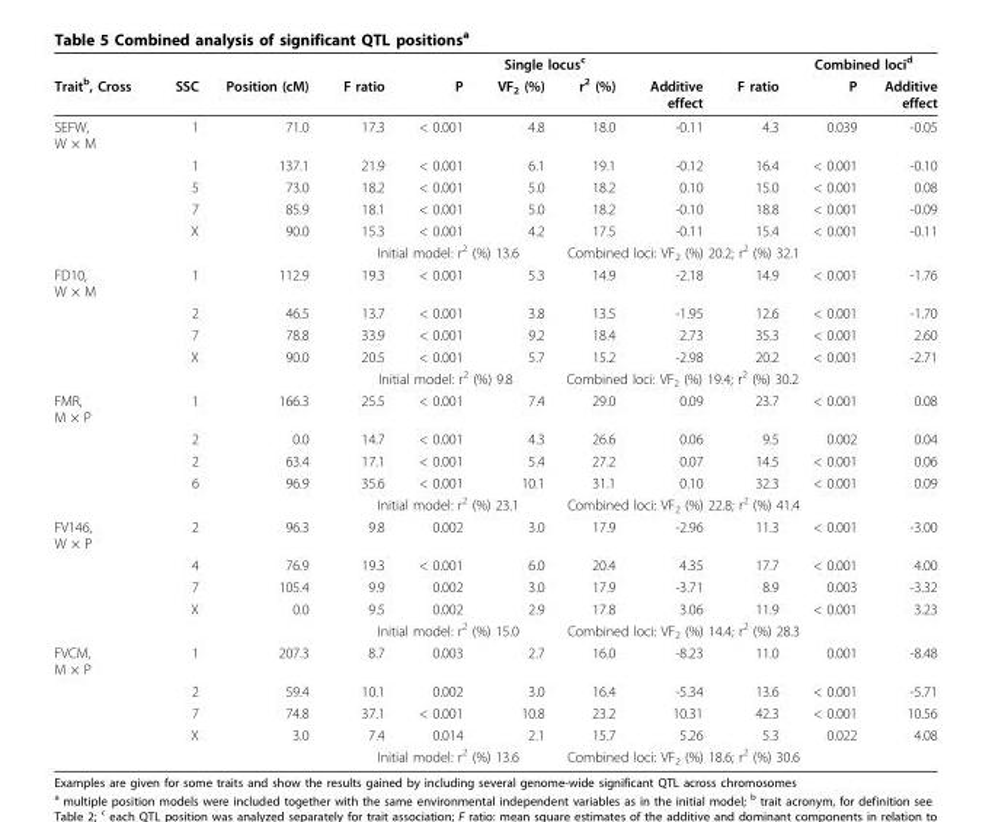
<table><thead><tr><td rowspan="2">Trait<sup>b</sup>, Cross</td><td rowspan="2">SSC</td><td rowspan="2">Position (cM)</td><td rowspan="2">F ratio</td><td rowspan="2">P</td><td colspan="2">Single locus<sup>c</sup></td><td rowspan="2">Additive effect</td><td rowspan="2">F ratio</td><td colspan="2">Combined loci<sup>d</sup></td></tr><tr><td>VF<sub>2</sub> (%)</td><td>r<sup>2</sup> (%)</td><td>P</td><td>Additive effect</td></tr></thead><tbody><tr><td rowspan="6">SEFW, W × M</td><td>1</td><td>71.0</td><td>17.3</td><td>&lt; 0.001</td><td>4.8</td><td>18.0</td><td>-0.11</td><td>4.3</td><td>0.039</td><td>-0.05</td></tr><tr><td>1</td><td>137.1</td><td>21.9</td><td>&lt; 0.001</td><td>6.1</td><td>19.1</td><td>-0.12</td><td>16.4</td><td>&lt; 0.001</td><td>-0.10</td></tr><tr><td>5</td><td>73.0</td><td>18.2</td><td>&lt; 0.001</td><td>5.0</td><td>18.2</td><td>0.10</td><td>15.0</td><td>&lt; 0.001</td><td>0.08</td></tr><tr><td>7</td><td>85.9</td><td>18.1</td><td>&lt; 0.001</td><td>5.0</td><td>18.2</td><td>-0.10</td><td>18.8</td><td>&lt; 0.001</td><td>-0.09</td></tr><tr><td>X</td><td>90.0</td><td>15.3</td><td>&lt; 0.001</td><td>4.2</td><td>17.5</td><td>-0.11</td><td>15.4</td><td>&lt; 0.001</td><td>-0.11</td></tr><tr><td></td><td></td><td colspan="7">Initial model: r<sup>2</sup> (%) 13.6 Combined loci: VF<sub>2</sub> (%) 20.2; r<sup>2</sup> (%) 32.1</td><td></td></tr><tr><td rowspan="5">FD10, W × M</td><td>1</td><td>112.9</td><td>19.3</td><td>&lt; 0.001</td><td>5.3</td><td>14.9</td><td>-2.18</td><td>14.9</td><td>&lt; 0.001</td><td>-1.76</td></tr><tr><td>2</td><td>46.5</td><td>13.7</td><td>&lt; 0.001</td><td>3.8</td><td>13.5</td><td>-1.95</td><td>12.6</td><td>&lt; 0.001</td><td>-1.70</td></tr><tr><td>7</td><td>78.8</td><td>33.9</td><td>&lt; 0.001</td><td>9.2</td><td>18.4</td><td>2.73</td><td>35.3</td><td>&lt; 0.001</td><td>2.60</td></tr><tr><td>X</td><td>90.0</td><td>20.5</td><td>&lt; 0.001</td><td>5.7</td><td>15.2</td><td>-2.98</td><td>20.2</td><td>&lt; 0.001</td><td>-2.71</td></tr><tr><td></td><td></td><td colspan="7">Initial model: r<sup>2</sup> (%) 9.8 Combined loci: VF<sub>2</sub> (%) 19.4; r<sup>2</sup> (%) 30.2</td><td></td></tr><tr><td rowspan="5">FMR, M × P</td><td>1</td><td>166.3</td><td>25.5</td><td>&lt; 0.001</td><td>7.4</td><td>29.0</td><td>0.09</td><td>23.7</td><td>&lt; 0.001</td><td>0.08</td></tr><tr><td>2</td><td>0.0</td><td>14.7</td><td>&lt; 0.001</td><td>4.3</td><td>26.6</td><td>0.06</td><td>9.5</td><td>0.002</td><td>0.04</td></tr><tr><td>2</td><td>63.4</td><td>17.1</td><td>&lt; 0.001</td><td>5.4</td><td>27.2</td><td>0.07</td><td>14.5</td><td>&lt; 0.001</td><td>0.06</td></tr><tr><td>6</td><td>96.9</td><td>35.6</td><td>&lt; 0.001</td><td>10.1</td><td>31.1</td><td>0.10</td><td>32.3</td><td>&lt; 0.001</td><td>0.09</td></tr><tr><td></td><td></td><td colspan="7">Initial model: r<sup>2</sup> (%) 23.1 Combined loci: VF<sub>2</sub> (%) 22.8; r<sup>2</sup> (%) 41.4</td><td></td></tr><tr><td rowspan="5">FV146, W × P</td><td>2</td><td>96.3</td><td>9.8</td><td>0.002</td><td>3.0</td><td>17.9</td><td>-2.96</td><td>11.3</td><td>&lt; 0.001</td><td>-3.00</td></tr><tr><td>4</td><td>76.9</td><td>19.3</td><td>&lt; 0.001</td><td>6.0</td><td>20.4</td><td>4.35</td><td>17.7</td><td>&lt; 0.001</td><td>4.00</td></tr><tr><td>7</td><td>105.4</td><td>9.9</td><td>0.002</td><td>3.0</td><td>17.9</td><td>-3.71</td><td>8.9</td><td>0.003</td><td>-3.32</td></tr><tr><td>X</td><td>0.0</td><td>9.5</td><td>0.002</td><td>2.9</td><td>17.8</td><td>3.06</td><td>11.9</td><td>&lt; 0.001</td><td>3.23</td></tr><tr><td></td><td></td><td colspan="7">Initial model: r<sup>2</sup> (%) 15.0 Combined loci: VF<sub>2</sub> (%) 14.4; r<sup>2</sup> (%) 28.3</td><td></td></tr><tr><td rowspan="5">FVCM, M × P</td><td>1</td><td>207.3</td><td>8.7</td><td>0.003</td><td>2.7</td><td>16.0</td><td>-8.23</td><td>11.0</td><td>0.001</td><td>-8.48</td></tr><tr><td>2</td><td>59.4</td><td>10.1</td><td>0.002</td><td>3.0</td><td>16.4</td><td>-5.34</td><td>13.6</td><td>&lt; 0.001</td><td>-5.71</td></tr><tr><td>7</td><td>74.8</td><td>37.1</td><td>&lt; 0.001</td><td>10.8</td><td>23.2</td><td>10.31</td><td>42.3</td><td>&lt; 0.001</td><td>10.56</td></tr><tr><td>X</td><td>3.0</td><td>7.4</td><td>0.014</td><td>2.1</td><td>15.7</td><td>5.26</td><td>5.3</td><td>0.022</td><td>4.08</td></tr><tr><td></td><td></td><td colspan="7">Initial model: r<sup>2</sup> (%) 13.6 Combined loci: VF<sub>2</sub> (%) 18.6; r<sup>2</sup> (%) 30.6</td><td></td></tr></tbody></table>